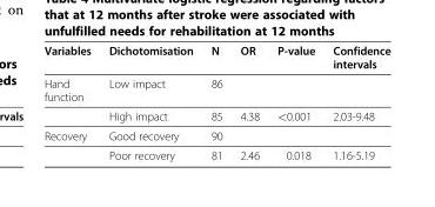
<table><thead><tr><td>Variables</td><td>Dichotomisation</td><td>N</td><td>OR</td><td>P-value</td><td>Confidence intervals</td></tr></thead><tbody><tr><td rowspan="2">Hand function</td><td>Low impact</td><td>86</td><td></td><td></td><td></td></tr><tr><td>High impact</td><td>85</td><td>4.38</td><td>&lt;0.001</td><td>2.03-9.48</td></tr><tr><td rowspan="2">Recovery</td><td>Good recovery</td><td>90</td><td></td><td></td><td></td></tr><tr><td>Poor recovery</td><td>81</td><td>2.46</td><td>0.018</td><td>1.16-5.19</td></tr></tbody></table>